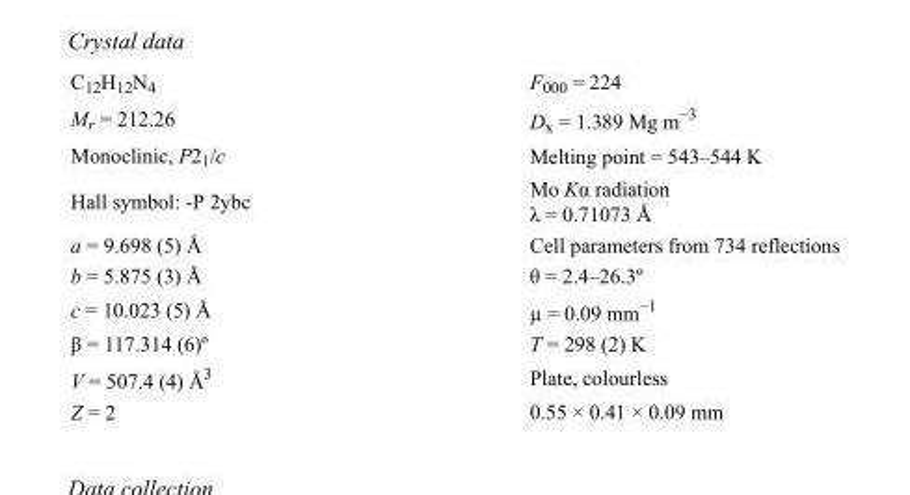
<table><tbody><tr><td>C<sub>12</sub>H<sub>12</sub>N<sub>4</sub></td><td>F000 = 224</td></tr><tr><td>M<sub>r</sub> = 212.26</td><td>D<sub>x</sub> = 1.389 Mg m<sup>−3</sup></td></tr><tr><td>Monoclinic, P2<sub>1</sub>/c</td><td>Melting point = 543–544 K</td></tr><tr><td>Hall symbol: -P 2ybc</td><td>Mo Kα radiation λ = 0.71073 Å</td></tr><tr><td>a = 9.698 (5) Å</td><td>Cell parameters from 734 reflections</td></tr><tr><td>b = 5.875 (3) Å</td><td>θ = 2.4–26.3º</td></tr><tr><td>c = 10.023 (5) Å</td><td>µ = 0.09 mm<sup>−1</sup></td></tr><tr><td>β = 117.314 (6)º</td><td>T = 298 (2) K</td></tr><tr><td>V = 507.4 (4) Å<sup>3</sup></td><td>Plate, colourless</td></tr><tr><td>Z = 2</td><td>0.55 × 0.41 × 0.09 mm</td></tr></tbody></table>